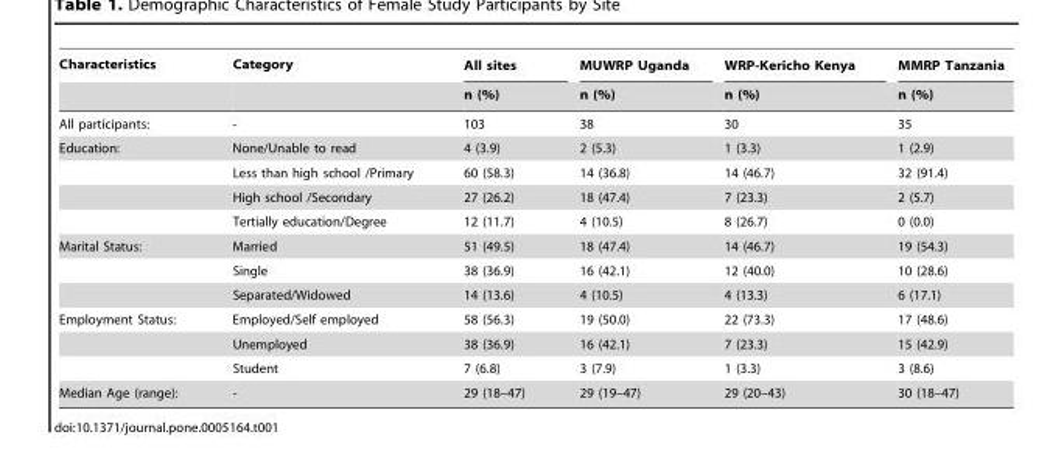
<table><thead><tr><td rowspan="2">Characteristics</td><td rowspan="2">Category</td><td rowspan="2">All sites n (%)</td><td rowspan="2">MUWRP Uganda n (%)</td><td rowspan="2">WRP-Kericho Kenya n (%)</td><td rowspan="2">MMRP Tanzania n (%)</td></tr><tr></tr></thead><tbody><tr><td>All participants:</td><td>-</td><td>103</td><td>38</td><td>30</td><td>35</td></tr><tr><td rowspan="4">Education:</td><td>None/Unable to read</td><td>4 (3.9)</td><td>2 (5.3)</td><td>1 (3.3)</td><td>1 (2.9)</td></tr><tr><td>Less than high school /Primary</td><td>60 (58.3)</td><td>14 (36.8)</td><td>14 (46.7)</td><td>32 (91.4)</td></tr><tr><td>High school /Secondary</td><td>27 (26.2)</td><td>18 (47.4)</td><td>7 (23.3)</td><td>2 (5.7)</td></tr><tr><td>Tertially education/Degree</td><td>12 (11.7)</td><td>4 (10.5)</td><td>8 (26.7)</td><td>0 (0.0)</td></tr><tr><td rowspan="3">Marital Status:</td><td>Married</td><td>51 (49.5)</td><td>18 (47.4)</td><td>14 (46.7)</td><td>19 (54.3)</td></tr><tr><td>Single</td><td>38 (36.9)</td><td>16 (42.1)</td><td>12 (40.0)</td><td>10 (28.6)</td></tr><tr><td>Separated/Widowed</td><td>14 (13.6)</td><td>4 (10.5)</td><td>4 (13.3)</td><td>6 (17.1)</td></tr><tr><td rowspan="3">Employment Status:</td><td>Employed/Self employed</td><td>58 (56.3)</td><td>19 (50.0)</td><td>22 (73.3)</td><td>17 (48.6)</td></tr><tr><td>Unemployed</td><td>38 (36.9)</td><td>16 (42.1)</td><td>7 (23.3)</td><td>15 (42.9)</td></tr><tr><td>Student</td><td>7 (6.8)</td><td>3 (7.9)</td><td>1 (3.3)</td><td>3 (8.6)</td></tr><tr><td>Median Age (range):</td><td>-</td><td>29 (18–47)</td><td>29 (19–47)</td><td>29 (20–43)</td><td>30 (18–47)</td></tr></tbody></table>